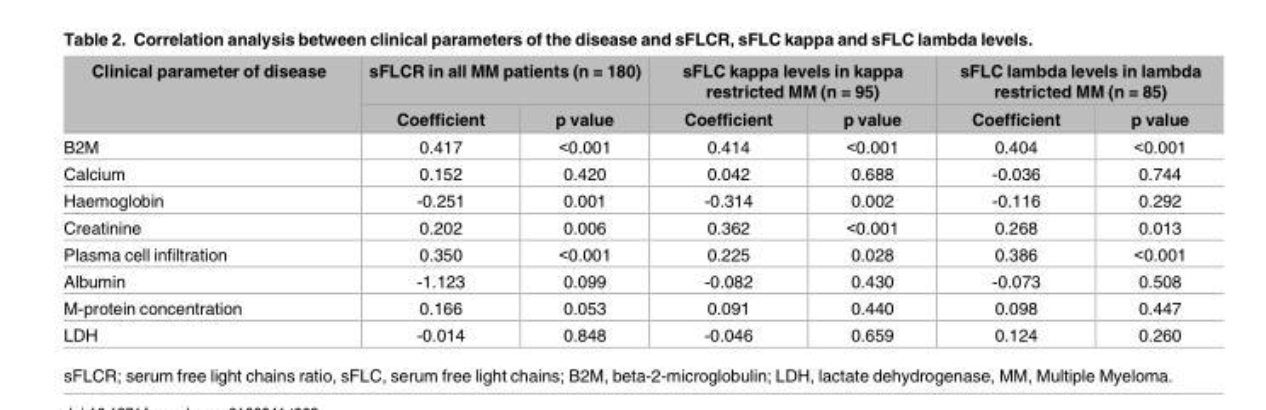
<table><thead><tr><td rowspan="2">Clinical parameter of disease</td><td colspan="2">sFLCR in all MM patients (n = 180)</td><td colspan="2">sFLC kappa levels in kappa restricted MM (n = 95)</td><td colspan="2">sFLC lambda levels in lambda restricted MM (n = 85)</td></tr><tr><td>Coefficient</td><td>p value</td><td>Coefficient</td><td>p value</td><td>Coefficient</td><td>p value</td></tr></thead><tbody><tr><td>B2M</td><td>0.417</td><td>&lt;0.001</td><td>0.414</td><td>&lt;0.001</td><td>0.404</td><td>&lt;0.001</td></tr><tr><td>Calcium</td><td>0.152</td><td>0.420</td><td>0.042</td><td>0.688</td><td>-0.036</td><td>0.744</td></tr><tr><td>Haemoglobin</td><td>-0.251</td><td>0.001</td><td>-0.314</td><td>0.002</td><td>-0.116</td><td>0.292</td></tr><tr><td>Creatinine</td><td>0.202</td><td>0.006</td><td>0.362</td><td>&lt;0.001</td><td>0.268</td><td>0.013</td></tr><tr><td>Plasma cell infiltration</td><td>0.350</td><td>&lt;0.001</td><td>0.225</td><td>0.028</td><td>0.386</td><td>&lt;0.001</td></tr><tr><td>Albumin</td><td>-1.123</td><td>0.099</td><td>-0.082</td><td>0.430</td><td>-0.073</td><td>0.508</td></tr><tr><td>M-protein concentration</td><td>0.166</td><td>0.053</td><td>0.091</td><td>0.440</td><td>0.098</td><td>0.447</td></tr><tr><td>LDH</td><td>-0.014</td><td>0.848</td><td>-0.046</td><td>0.659</td><td>0.124</td><td>0.260</td></tr></tbody></table>